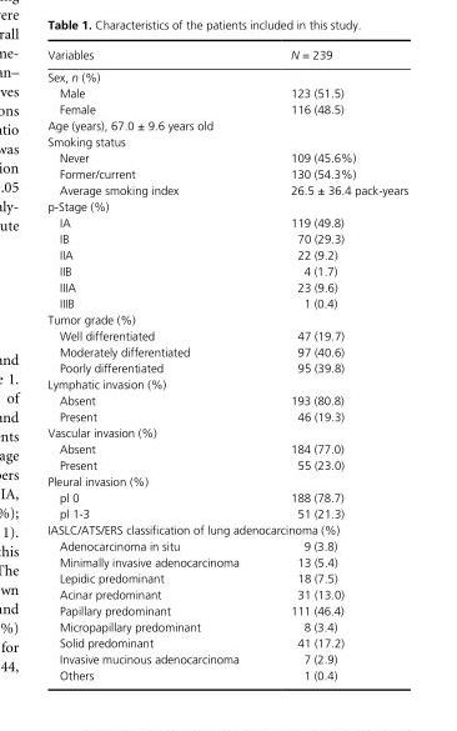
<table><thead><tr><td>Variables</td><td>N = 239</td></tr></thead><tbody><tr><td colspan="2">Sex, n (%)</td></tr><tr><td>Male</td><td>123 (51.5)</td></tr><tr><td>Female</td><td>116 (48.5)</td></tr><tr><td colspan="2">Age (years), 67.0 ± 9.6 years old</td></tr><tr><td colspan="2">Smoking status</td></tr><tr><td>Never</td><td>109 (45.6%)</td></tr><tr><td>Former/current</td><td>130 (54.3%)</td></tr><tr><td>Average smoking index</td><td>26.5 ± 36.4 pack- years</td></tr><tr><td colspan="2">p- Stage (%)</td></tr><tr><td>IA</td><td>119 (49.8)</td></tr><tr><td>IB</td><td>70 (29.3)</td></tr><tr><td>IIA</td><td>22 (9.2)</td></tr><tr><td>IIB</td><td>4 (1.7)</td></tr><tr><td>IIIA</td><td>23 (9.6)</td></tr><tr><td>IIIB</td><td>1 (0.4)</td></tr><tr><td colspan="2">Tumor grade (%)</td></tr><tr><td>Well differentiated</td><td>47 (19.7)</td></tr><tr><td>Moderately differentiated</td><td>97 (40.6)</td></tr><tr><td>Poorly differentiated</td><td>95 (39.8)</td></tr><tr><td colspan="2">Lymphatic invasion (%)</td></tr><tr><td>Absent</td><td>193 (80.8)</td></tr><tr><td>Present</td><td>46 (19.3)</td></tr><tr><td colspan="2">Vascular invasion (%)</td></tr><tr><td>Absent</td><td>184 (77.0)</td></tr><tr><td>Present</td><td>55 (23.0)</td></tr><tr><td colspan="2">Pleural invasion (%)</td></tr><tr><td>pl 0</td><td>188 (78.7)</td></tr><tr><td>pl 1- 3</td><td>51 (21.3)</td></tr><tr><td colspan="2">IASLC/ATS/ERS classification of lung adenocarcinoma (%)</td></tr><tr><td>Adenocarcinoma in situ</td><td>9 (3.8)</td></tr><tr><td>Minimally invasive adenocarcinoma</td><td>13 (5.4)</td></tr><tr><td>Lepidic predominant</td><td>18 (7.5)</td></tr><tr><td>Acinar predominant</td><td>31 (13.0)</td></tr><tr><td>Papillary predominant</td><td>111 (46.4)</td></tr><tr><td>Micropapillary predominant</td><td>8 (3.4)</td></tr><tr><td>Solid predominant</td><td>41 (17.2)</td></tr><tr><td>Invasive mucinous adenocarcinoma</td><td>7 (2.9)</td></tr><tr><td>Others</td><td>1 (0.4)</td></tr></tbody></table>